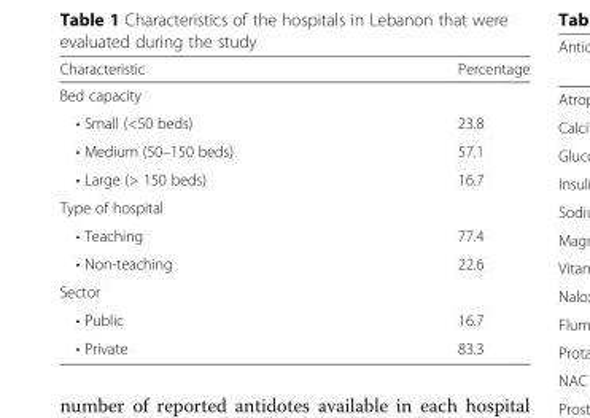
<table><thead><tr><td>Characteristic</td><td>Percentage</td></tr></thead><tbody><tr><td colspan="2">Bed capacity</td></tr><tr><td>• Small (&lt;50 beds)</td><td>23.8</td></tr><tr><td>• Medium (50–150 beds)</td><td>57.1</td></tr><tr><td>• Large (&gt; 150 beds)</td><td>16.7</td></tr><tr><td colspan="2">Type of hospital</td></tr><tr><td>• Teaching</td><td>77.4</td></tr><tr><td>• Non-teaching</td><td>22.6</td></tr><tr><td colspan="2">Sector</td></tr><tr><td>• Public</td><td>16.7</td></tr><tr><td>• Private</td><td>83.3</td></tr></tbody></table>